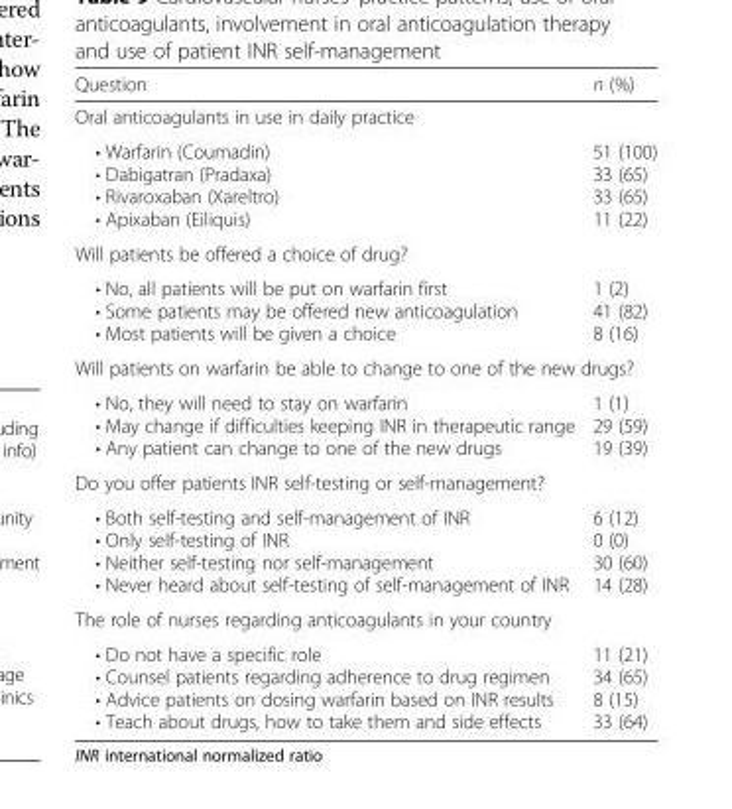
<table><thead><tr><td>Question</td><td>n (%)</td></tr></thead><tbody><tr><td colspan="2">Oral anticoagulants in use in daily practice</td></tr><tr><td>• Warfarin (Coumadin) • Dabigatran (Pradaxa) • Rivaroxaban (Xareltro) • Apixaban (Eiliquis)</td><td>51 (100) 33 (65) 33 (65) 11 (22)</td></tr><tr><td colspan="2">Will patients be offered a choice of drug?</td></tr><tr><td>• No, all patients will be put on warfarin first • Some patients may be offered new anticoagulation • Most patients will be given a choice</td><td>1 (2) 41 (82) 8 (16)</td></tr><tr><td colspan="2">Will patients on warfarin be able to change to one of the new drugs?</td></tr><tr><td>• No, they will need to stay on warfarin • May change if difficulties keeping INR in therapeutic range • Any patient can change to one of the new drugs</td><td>1 (1) 29 (59) 19 (39)</td></tr><tr><td colspan="2">Do you offer patients INR self-testing or self-management?</td></tr><tr><td>• Both self-testing and self-management of INR • Only self-testing of INR • Neither self-testing nor self-management • Never heard about self-testing of self-management of INR</td><td>6 (12) 0 (0) 30 (60) 14 (28)</td></tr><tr><td colspan="2">The role of nurses regarding anticoagulants in your country</td></tr><tr><td>• Do not have a specific role • Counsel patients regarding adherence to drug regimen • Advice patients on dosing warfarin based on INR results • Teach about drugs, how to take them and side effects</td><td>11 (21) 34 (65) 8 (15) 33 (64)</td></tr></tbody></table>